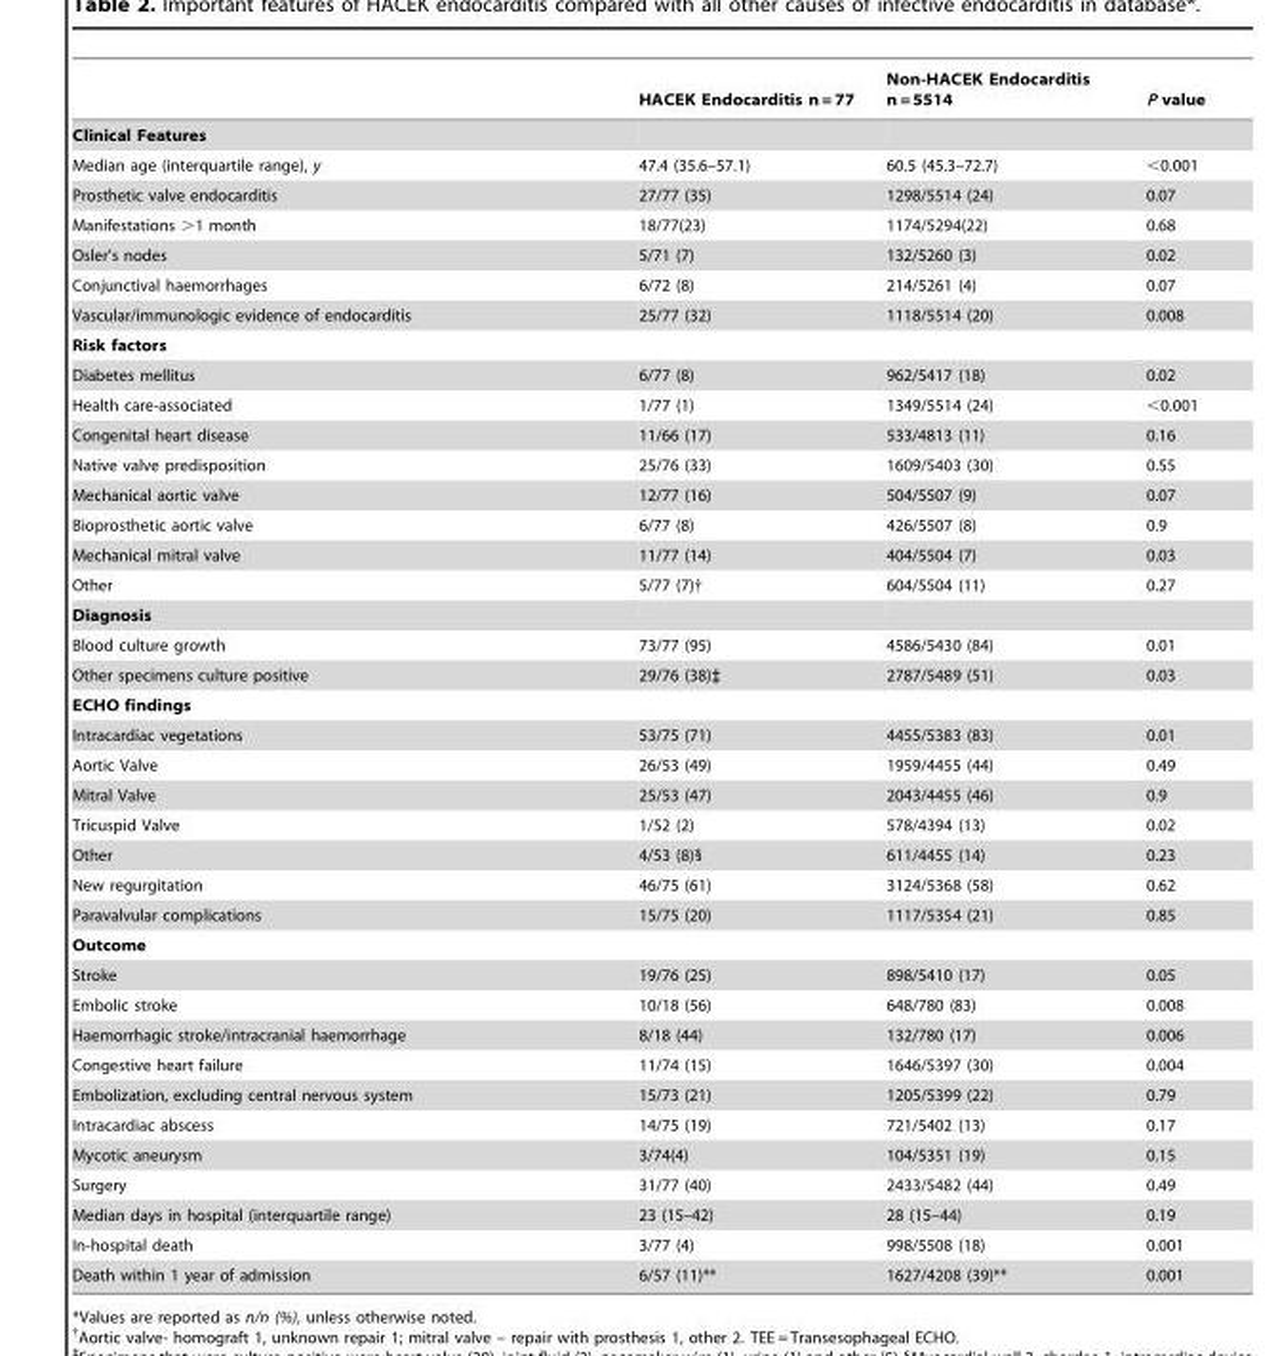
<table><thead><tr><td></td><td>HACEK Endocarditis n = 77</td><td>Non-HACEK Endocarditis n = 5514</td><td>P value</td></tr></thead><tbody><tr><td colspan="4">Clinical Features</td></tr><tr><td>Median age (interquartile range), y</td><td>47.4 (35.6–57.1)</td><td>60.5 (45.3–72.7)</td><td>&lt;0.001</td></tr><tr><td>Prosthetic valve endocarditis</td><td>27/77 (35)</td><td>1298/5514 (24)</td><td>0.07</td></tr><tr><td>Manifestations &gt;1 month</td><td>18/77(23)</td><td>1174/5294(22)</td><td>0.68</td></tr><tr><td>Osler’s nodes</td><td>5/71 (7)</td><td>132/5260 (3)</td><td>0.02</td></tr><tr><td>Conjunctival haemorrhages</td><td>6/72 (8)</td><td>214/5261 (4)</td><td>0.07</td></tr><tr><td>Vascular/immunologic evidence of endocarditis</td><td>25/77 (32)</td><td>1118/5514 (20)</td><td>0.008</td></tr><tr><td colspan="4">Risk factors</td></tr><tr><td>Diabetes mellitus</td><td>6/77 (8)</td><td>962/5417 (18)</td><td>0.02</td></tr><tr><td>Health care-associated</td><td>1/77 (1)</td><td>1349/5514 (24)</td><td>&lt;0.001</td></tr><tr><td>Congenital heart disease</td><td>11/66 (17)</td><td>533/4813 (11)</td><td>0.16</td></tr><tr><td>Native valve predisposition</td><td>25/76 (33)</td><td>1609/5403 (30)</td><td>0.55</td></tr><tr><td>Mechanical aortic valve</td><td>12/77 (16)</td><td>504/5507 (9)</td><td>0.07</td></tr><tr><td>Bioprosthetic aortic valve</td><td>6/77 (8)</td><td>426/5507 (8)</td><td>0.9</td></tr><tr><td>Mechanical mitral valve</td><td>11/77 (14)</td><td>404/5504 (7)</td><td>0.03</td></tr><tr><td>Other</td><td>5/77 (7)†</td><td>604/5504 (11)</td><td>0.27</td></tr><tr><td colspan="4">Diagnosis</td></tr><tr><td>Blood culture growth</td><td>73/77 (95)</td><td>4586/5430 (84)</td><td>0.01</td></tr><tr><td>Other specimens culture positive</td><td>29/76 (38)‡</td><td>2787/5489 (51)</td><td>0.03</td></tr><tr><td colspan="4">ECHO findings</td></tr><tr><td>Intracardiac vegetations</td><td>53/75 (71)</td><td>4455/5383 (83)</td><td>0.01</td></tr><tr><td>Aortic Valve</td><td>26/53 (49)</td><td>1959/4455 (44)</td><td>0.49</td></tr><tr><td>Mitral Valve</td><td>25/53 (47)</td><td>2043/4455 (46)</td><td>0.9</td></tr><tr><td>Tricuspid Valve</td><td>1/52 (2)</td><td>578/4394 (13)</td><td>0.02</td></tr><tr><td>Other</td><td>4/53 (8)§</td><td>611/4455 (14)</td><td>0.23</td></tr><tr><td>New regurgitation</td><td>46/75 (61)</td><td>3124/5368 (58)</td><td>0.62</td></tr><tr><td>Paravalvular complications</td><td>15/75 (20)</td><td>1117/5354 (21)</td><td>0.85</td></tr><tr><td colspan="4">Outcome</td></tr><tr><td>Stroke</td><td>19/76 (25)</td><td>898/5410 (17)</td><td>0.05</td></tr><tr><td>Embolic stroke</td><td>10/18 (56)</td><td>648/780 (83)</td><td>0.008</td></tr><tr><td>Haemorrhagic stroke/intracranial haemorrhage</td><td>8/18 (44)</td><td>132/780 (17)</td><td>0.006</td></tr><tr><td>Congestive heart failure</td><td>11/74 (15)</td><td>1646/5397 (30)</td><td>0.004</td></tr><tr><td>Embolization, excluding central nervous system</td><td>15/73 (21)</td><td>1205/5399 (22)</td><td>0.79</td></tr><tr><td>Intracardiac abscess</td><td>14/75 (19)</td><td>721/5402 (13)</td><td>0.17</td></tr><tr><td>Mycotic aneurysm</td><td>3/74(4)</td><td>104/5351 (19)</td><td>0.15</td></tr><tr><td>Surgery</td><td>31/77 (40)</td><td>2433/5482 (44)</td><td>0.49</td></tr><tr><td>Median days in hospital (interquartile range)</td><td>23 (15–42)</td><td>28 (15–44)</td><td>0.19</td></tr><tr><td>In-hospital death</td><td>3/77 (4)</td><td>998/5508 (18)</td><td>0.001</td></tr><tr><td>Death within 1 year of admission</td><td>6/57 (11)**</td><td>1627/4208 (39)**</td><td>0.001</td></tr></tbody></table>